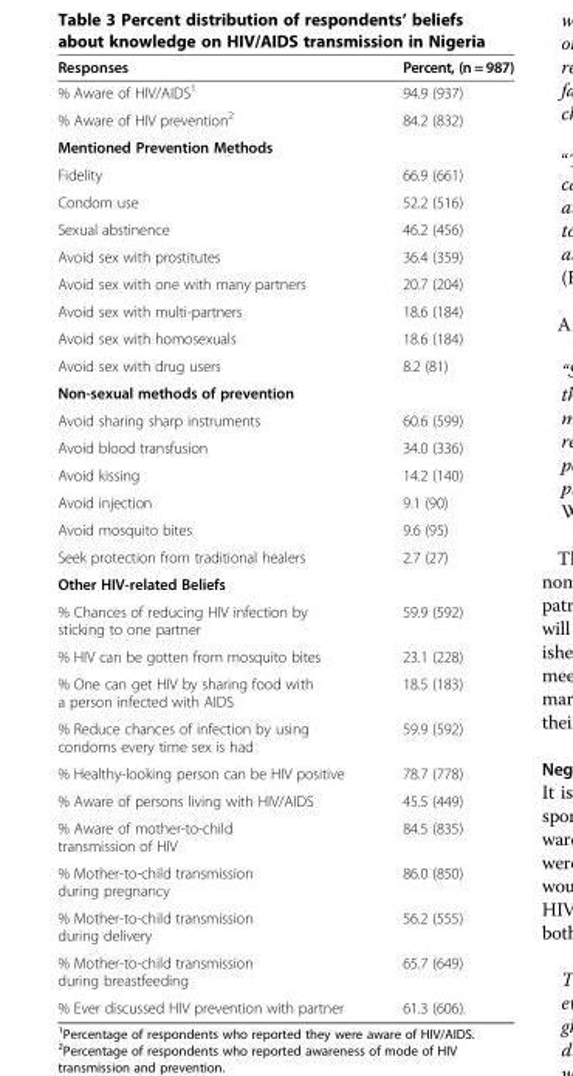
<table><thead><tr><td>Responses</td><td>Percent, (n = 987)</td></tr></thead><tbody><tr><td>% Aware of HIV/AIDS<sup>1</sup></td><td>94.9 (937)</td></tr><tr><td>% Aware of HIV prevention<sup>2</sup></td><td>84.2 (832)</td></tr><tr><td colspan="2">Mentioned Prevention Methods</td></tr><tr><td>Fidelity</td><td>66.9 (661)</td></tr><tr><td>Condom use</td><td>52.2 (516)</td></tr><tr><td>Sexual abstinence</td><td>46.2 (456)</td></tr><tr><td>Avoid sex with prostitutes</td><td>36.4 (359)</td></tr><tr><td>Avoid sex with one with many partners</td><td>20.7 (204)</td></tr><tr><td>Avoid sex with multi-partners</td><td>18.6 (184)</td></tr><tr><td>Avoid sex with homosexuals</td><td>18.6 (184)</td></tr><tr><td>Avoid sex with drug users</td><td>8.2 (81)</td></tr><tr><td colspan="2">Non-sexual methods of prevention</td></tr><tr><td>Avoid sharing sharp instruments</td><td>60.6 (599)</td></tr><tr><td>Avoid blood transfusion</td><td>34.0 (336)</td></tr><tr><td>Avoid kissing</td><td>14.2 (140)</td></tr><tr><td>Avoid injection</td><td>9.1 (90)</td></tr><tr><td>Avoid mosquito bites</td><td>9.6 (95)</td></tr><tr><td>Seek protection from traditional healers</td><td>2.7 (27)</td></tr><tr><td colspan="2">Other HIV-related Beliefs</td></tr><tr><td>% Chances of reducing HIV infection by sticking to one partner</td><td>59.9 (592)</td></tr><tr><td>% HIV can be gotten from mosquito bites</td><td>23.1 (228)</td></tr><tr><td>% One can get HIV by sharing food with a person infected with AIDS</td><td>18.5 (183)</td></tr><tr><td>% Reduce chances of infection by using condoms every time sex is had</td><td>59.9 (592)</td></tr><tr><td>% Healthy-looking person can be HIV positive</td><td>78.7 (778)</td></tr><tr><td>% Aware of persons living with HIV/AIDS</td><td>45.5 (449)</td></tr><tr><td>% Aware of mother-to-child transmission of HIV</td><td>84.5 (835)</td></tr><tr><td>% Mother-to-child transmission during pregnancy</td><td>86.0 (850)</td></tr><tr><td>% Mother-to-child transmission during delivery</td><td>56.2 (555)</td></tr><tr><td>% Mother-to-child transmission during breastfeeding</td><td>65.7 (649)</td></tr><tr><td>% Ever discussed HIV prevention with partner</td><td>61.3 (606).</td></tr></tbody></table>